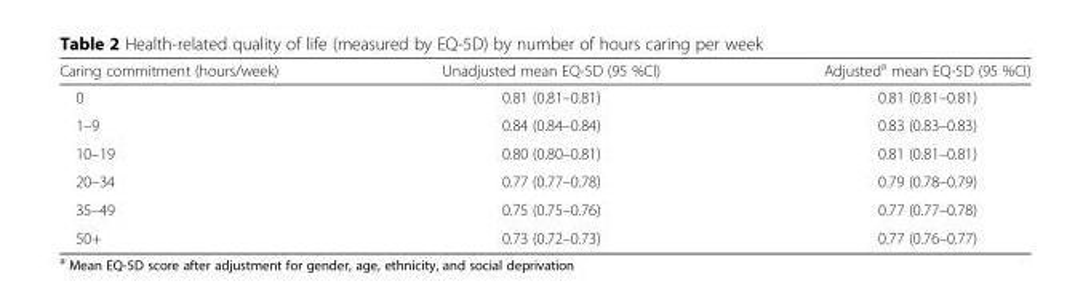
<table><thead><tr><td>Caring commitment (hours/week)</td><td>Unadjusted mean EQ-5D (95 %CI)</td><td>Adjusted<sup>a</sup> mean EQ-5D (95 %CI)</td></tr></thead><tbody><tr><td>0</td><td>0.81 (0.81–0.81)</td><td>0.81 (0.81–0.81)</td></tr><tr><td>1–9</td><td>0.84 (0.84–0.84)</td><td>0.83 (0.83–0.83)</td></tr><tr><td>10–19</td><td>0.80 (0.80–0.81)</td><td>0.81 (0.81–0.81)</td></tr><tr><td>20–34</td><td>0.77 (0.77–0.78)</td><td>0.79 (0.78–0.79)</td></tr><tr><td>35–49</td><td>0.75 (0.75–0.76)</td><td>0.77 (0.77–0.78)</td></tr><tr><td>50+</td><td>0.73 (0.72–0.73)</td><td>0.77 (0.76–0.77)</td></tr></tbody></table>